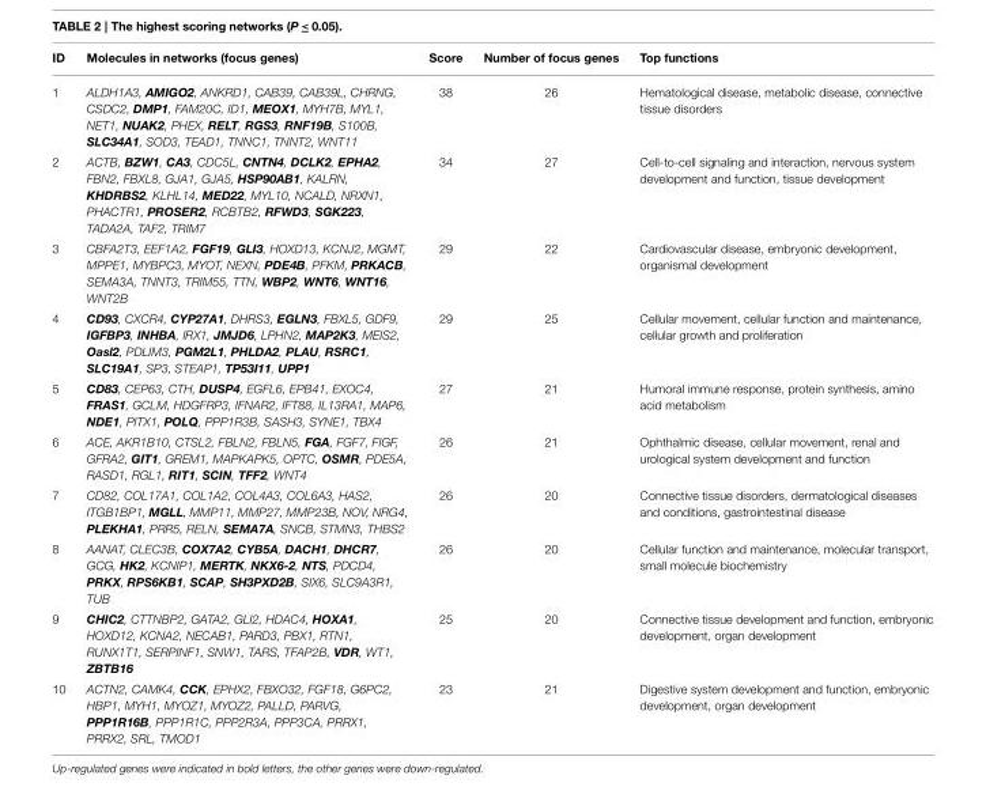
<table><thead><tr><td>ID</td><td>Molecules in networks (focus genes)</td><td>Score</td><td>Number of focus genes</td><td>Top functions</td></tr></thead><tbody><tr><td>1</td><td>ALDH1A3, AMIGO2, ANKRD1, CAB39, CAB39L, CHRNG, CSDC2, DMP1, FAM20C, ID1, MEOX1, MYH7B, MYL1, NET1, NUAK2, PHEX, RELT, RGS3, RNF19B, S100B, SLC34A1, SOD3, TEAD1, TNNC1, TNNT2, WNT11</td><td>38</td><td>26</td><td>Hematological disease, metabolic disease, connective tissue disorders</td></tr><tr><td>2</td><td>ACTB, BZW1, CA3, CDC5L, CNTN4, DCLK2, EPHA2, FBN2, FBXL8, GJA1, GJA5, HSP90AB1, KALRN, KHDRBS2, KLHL14, MED22, MYL10, NCALD, NRXN1, PHACTR1, PROSER2, RCBTB2, RFWD3, SGK223, TADA2A, TAF2, TRIM7</td><td>34</td><td>27</td><td>Cell-to-cell signaling and interaction, nervous system development and function, tissue development</td></tr><tr><td>3</td><td>CBFA2T3, EEF1A2, FGF19, GLI3, HOXD13, KCNJ2, MGMT, MPPE1, MYBPC3, MYOT, NEXN, PDE4B, PFKM, PRKACB, SEMA3A, TNNT3, TRIM55, TTN, WBP2, WNT6, WNT16, WNT2B</td><td>29</td><td>22</td><td>Cardiovascular disease, embryonic development, organismal development</td></tr><tr><td>4</td><td>CD93, CXCR4, CYP27A1, DHRS3, EGLN3, FBXL5, GDF9, IGFBP3, INHBA, IRX1, JMJD6, LPHN2, MAP2K3, MEIS2, Oasl2, PDLIM3, PGM2L1, PHLDA2, PLAU, RSRC1, SLC19A1, SP3, STEAP1, TP53I11, UPP1</td><td>29</td><td>25</td><td>Cellular movement, cellular function and maintenance, cellular growth and proliferation</td></tr><tr><td>5</td><td>CD83, CEP63, CTH, DUSP4, EGFL6, EPB41, EXOC4, FRAS1, GCLM, HDGFRP3, IFNAR2, IFT88, IL13RA1, MAP6, NDE1, PITX1, POLQ, PPP1R3B, SASH3, SYNE1, TBX4</td><td>27</td><td>21</td><td>Humoral immune response, protein synthesis, amino acid metabolism</td></tr><tr><td>6</td><td>ACE, AKR1B10, CTSL2, FBLN2, FBLN5, FGA, FGF7, FIGF, GFRA2, GIT1, GREM1, MAPKAPK5, OPTC, OSMR, PDE5A, RASD1, RGL1, RIT1, SCIN, TFF2, WNT4</td><td>26</td><td>21</td><td>Ophthalmic disease, cellular movement, renal and urological system development and function</td></tr><tr><td>7</td><td>CD82, COL17A1, COL1A2, COL4A3, COL6A3, HAS2, ITGB1BP1, MGLL, MMP11, MMP27, MMP23B, NOV, NRG4, PLEKHA1, PRR5, RELN, SEMA7A, SNCB, STMN3, THBS2</td><td>26</td><td>20</td><td>Connective tissue disorders, dermatological diseases and conditions, gastrointestinal disease</td></tr><tr><td>8</td><td>AANAT, CLEC3B, COX7A2, CYB5A, DACH1, DHCR7, GCG, HK2, KCNIP1, MERTK, NKX6-2, NTS, PDCD4, PRKX, RPS6KB1, SCAP, SH3PXD2B, SIX6, SLC9A3R1, TUB</td><td>26</td><td>20</td><td>Cellular function and maintenance, molecular transport, small molecule biochemistry</td></tr><tr><td>9</td><td>CHIC2, CTTNBP2, GATA2, GLI2, HDAC4, HOXA1, HOXD12, KCNA2, NECAB1, PARD3, PBX1, RTN1, RUNX1T1, SERPINF1, SNW1, TARS, TFAP2B, VDR, WT1, ZBTB16</td><td>25</td><td>20</td><td>Connective tissue development and function, embryonic development, organ development</td></tr><tr><td>10</td><td>ACTN2, CAMK4, CCK, EPHX2, FBXO32, FGF18, G6PC2, HBP1, MYH1, MYOZ1, MYOZ2, PALLD, PARVG, PPP1R16B, PPP1R1C, PPP2R3A, PPP3CA, PRRX1, PRRX2, SRL, TMOD1</td><td>23</td><td>21</td><td>Digestive system development and function, embryonic development, organ development</td></tr></tbody></table>